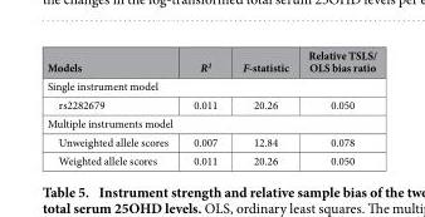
<table><thead><tr><td>Models</td><td>R<sup>2</sup></td><td>F-statistic</td><td>Relative TSLS/ OLS bias ratio</td></tr></thead><tbody><tr><td colspan="4">Single instrument model</td></tr><tr><td>rs2282679</td><td>0.011</td><td>20.26</td><td>0.050</td></tr><tr><td colspan="4">Multiple instruments model</td></tr><tr><td>Unweighted allele scores</td><td>0.007</td><td>12.84</td><td>0.078</td></tr><tr><td>Weighted allele scores</td><td>0.011</td><td>20.26</td><td>0.050</td></tr></tbody></table>